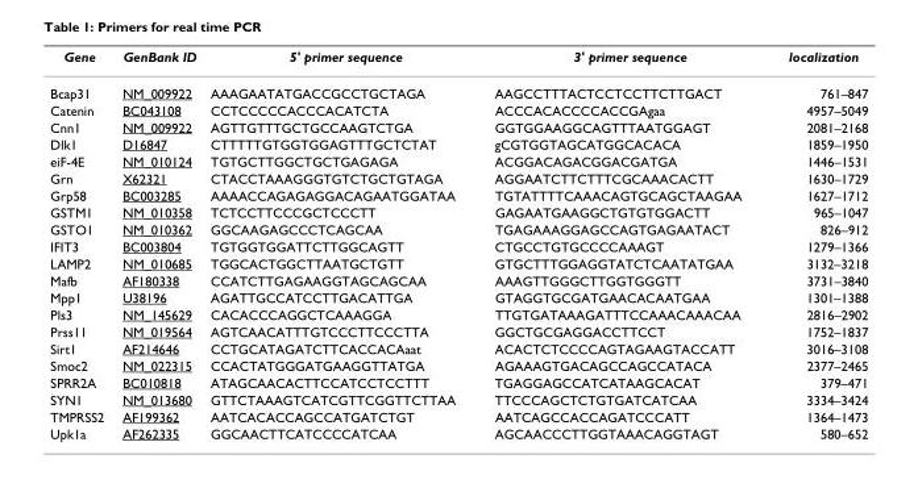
<table><thead><tr><td>Gene</td><td>GenBank ID</td><td>5&#x27; primer sequence</td><td>3&#x27; primer sequence</td><td>localization</td></tr></thead><tbody><tr><td>Bcap31</td><td>NM_009922</td><td>AAAGAATATGACCGCCTGCTAGA</td><td>AAGCCTTTACTCCTCCTTCTTGACT</td><td>761–847</td></tr><tr><td>Catenin</td><td>BC043108</td><td>CCTCCCCCACCCACATCTA</td><td>ACCCACACCCCACCGAgaa</td><td>4957–5049</td></tr><tr><td>Cnn1</td><td>NM_009922</td><td>AGTTGTTTGCTGCCAAGTCTGA</td><td>GGTGGAAGGCAGTTTAATGGAGT</td><td>2081–2168</td></tr><tr><td>Dlk1</td><td>D16847</td><td>CTTTTTGTGGTGGAGTTTGCTCTAT</td><td>gCGTGGTAGCATGGCACACA</td><td>1859–1950</td></tr><tr><td>eiF-4E</td><td>NM_010124</td><td>TGTGCTTGGCTGCTGAGAGA</td><td>ACGGACAGACGGACGATGA</td><td>1446–1531</td></tr><tr><td>Grn</td><td>X62321</td><td>CTACCTAAAGGGTGTCTGCTGTAGA</td><td>AGGAATCTTCTTTCGCAAACACTT</td><td>1630–1729</td></tr><tr><td>Grp58</td><td>BC003285</td><td>AAAACCAGAGAGGACAGAATGGATAA</td><td>TGTATTTTCAAACAGTGCAGCTAAGAA</td><td>1627–1712</td></tr><tr><td>GSTM1</td><td>NM_010358</td><td>TCTCCTTCCCGCTCCCTT</td><td>GAGAATGAAGGCTGTGTGGACTT</td><td>965–1047</td></tr><tr><td>GSTO1</td><td>NM_010362</td><td>GGCAAGAGCCCTCAGCAA</td><td>TGAGAAAGGAGCCAGTGAGAATACT</td><td>826–912</td></tr><tr><td>IFIT3</td><td>BC003804</td><td>TGTGGTGGATTCTTGGCAGTT</td><td>CTGCCTGTGCCCCAAAGT</td><td>1279–1366</td></tr><tr><td>LAMP2</td><td>NM_010685</td><td>TGGCACTGGCTTAATGCTGTT</td><td>GTGCTTTGGAGGTATCTCAATATGAA</td><td>3132–3218</td></tr><tr><td>Mafb</td><td>AF180338</td><td>CCATCTTGAGAAGGTAGCAGCAA</td><td>AAAGTTGGGCTTGGTGGGTT</td><td>3731–3840</td></tr><tr><td>Mpp1</td><td>U38196</td><td>AGATTGCCATCCTTGACATTGA</td><td>GTAGGTGCGATGAACACAATGAA</td><td>1301–1388</td></tr><tr><td>Pls3</td><td>NM_145629</td><td>CACACCCAGGCTCAAAGGA</td><td>TTGTGATAAAGATTTCCAAACAAACAA</td><td>2816–2902</td></tr><tr><td>Prss11</td><td>NM_019564</td><td>AGTCAACATTTGTCCCTTCCCTTA</td><td>GGCTGCGAGGACCTTCCT</td><td>1752–1837</td></tr><tr><td>Sirt1</td><td>AF214646</td><td>CCTGCATAGATCTTCACCACAaat</td><td>ACACTCTCCCCAGTAGAAGTACCATT</td><td>3016–3108</td></tr><tr><td>Smoc2</td><td>NM_022315</td><td>CCACTATGGGATGAAGGTTATGA</td><td>AGAAAGTGACAGCCAGCCATACA</td><td>2377–2465</td></tr><tr><td>SPRR2A</td><td>BC010818</td><td>ATAGCAACACTTCCATCCTCCTTT</td><td>TGAGGAGCCATCATAAGCACAT</td><td>379–471</td></tr><tr><td>SYN1</td><td>NM_013680</td><td>GTTCTAAAGTCATCGTTCGGTTCTTAA</td><td>TTCCCAGCTCTGTGATCATCAA</td><td>3334–3424</td></tr><tr><td>TMPRSS2</td><td>AF199362</td><td>AATCACACCAGCCATGATCTGT</td><td>AATCAGCCACCAGATCCCATT</td><td>1364–1473</td></tr><tr><td>Upk1a</td><td>AF262335</td><td>GGCAACTTCATCCCCATCAA</td><td>AGCAACCCTTGGTAAACAGGTAGT</td><td>580–652</td></tr></tbody></table>